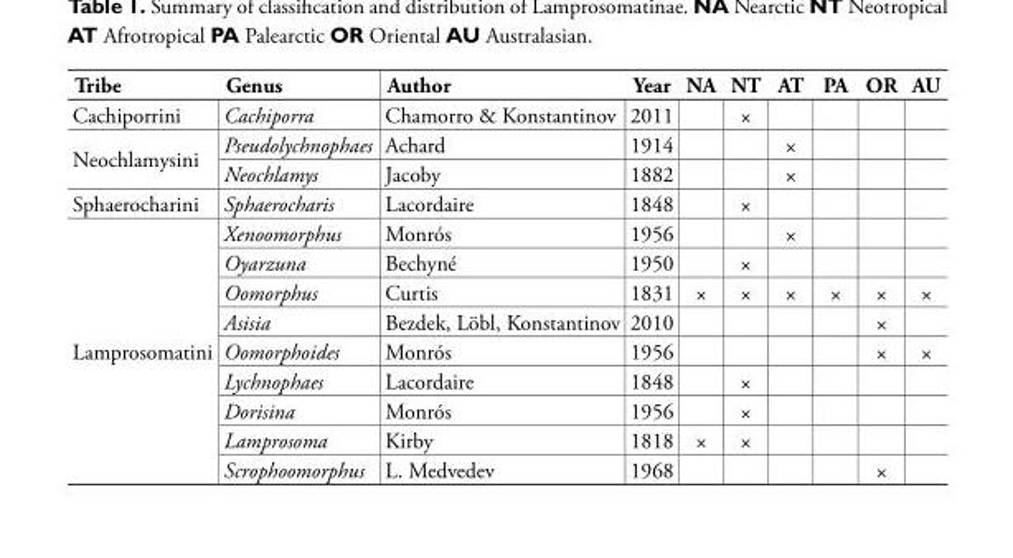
<table><thead><tr><td>Tribe</td><td>Genus</td><td>Author</td><td>Year</td><td>NA</td><td>NT</td><td>AT</td><td>PA</td><td>OR</td><td>AU</td></tr></thead><tbody><tr><td>Cachiporrini</td><td>Cachiporra</td><td>Chamorro &amp; Konstantinov</td><td>2011</td><td></td><td>×</td><td></td><td></td><td></td><td></td></tr><tr><td rowspan="2">Neochlamysini</td><td>Pseudolychnophaes</td><td>Achard</td><td>1914</td><td></td><td></td><td>×</td><td></td><td></td><td></td></tr><tr><td>Neochlamys</td><td>Jacoby</td><td>1882</td><td></td><td></td><td>×</td><td></td><td></td><td></td></tr><tr><td>Sphaerocharini</td><td>Sphaerocharis</td><td>Lacordaire</td><td>1848</td><td></td><td>×</td><td></td><td></td><td></td><td></td></tr><tr><td rowspan="9">Lamprosomatini</td><td>Xenoomorphus</td><td>Monrós</td><td>1956</td><td></td><td></td><td>×</td><td></td><td></td><td></td></tr><tr><td>Oyarzuna</td><td>Bechyné</td><td>1950</td><td></td><td>×</td><td></td><td></td><td></td><td></td></tr><tr><td>Oomorphus</td><td>Curtis</td><td>1831</td><td>×</td><td>×</td><td>×</td><td>×</td><td>×</td><td>×</td></tr><tr><td>Asisia</td><td>Bezdek, Löbl, Konstantinov</td><td>2010</td><td></td><td></td><td></td><td></td><td>×</td><td></td></tr><tr><td>Oomorphoides</td><td>Monrós</td><td>1956</td><td></td><td></td><td></td><td></td><td>×</td><td>×</td></tr><tr><td>Lychnophaes</td><td>Lacordaire</td><td>1848</td><td></td><td>×</td><td></td><td></td><td></td><td></td></tr><tr><td>Dorisina</td><td>Monrós</td><td>1956</td><td></td><td>×</td><td></td><td></td><td></td><td></td></tr><tr><td>Lamprosoma</td><td>Kirby</td><td>1818</td><td>×</td><td>×</td><td></td><td></td><td></td><td></td></tr><tr><td>Scrophoomorphus</td><td>L. Medvedev</td><td>1968</td><td></td><td></td><td></td><td></td><td>×</td><td></td></tr></tbody></table>